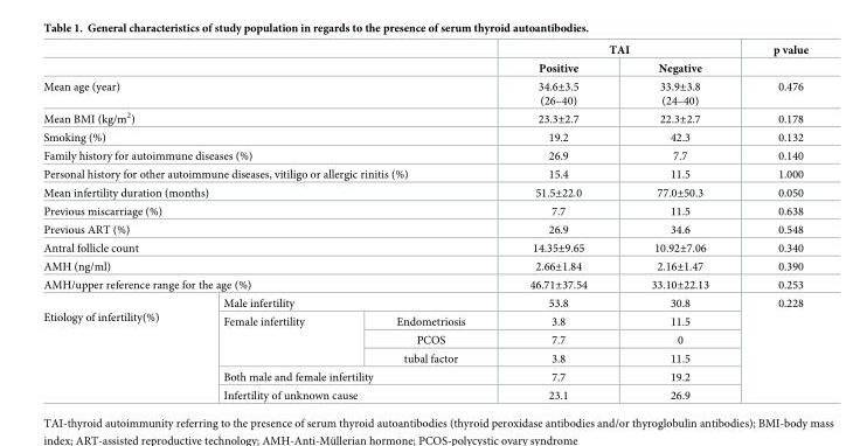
<table><thead><tr><td rowspan="2"></td><td rowspan="2"></td><td rowspan="2"></td><td colspan="2">TAI</td><td rowspan="2">p value</td></tr><tr><td>Positive</td><td>Negative</td></tr></thead><tbody><tr><td colspan="3">Mean age (year)</td><td>34.6±3.5 (26–40)</td><td>33.9±3.8 (24–40)</td><td>0.476</td></tr><tr><td colspan="3">Mean BMI (kg/m<sup>2</sup>)</td><td>23.3±2.7</td><td>22.3±2.7</td><td>0.178</td></tr><tr><td colspan="3">Smoking (%)</td><td>19.2</td><td>42.3</td><td>0.132</td></tr><tr><td colspan="3">Family history for autoimmune diseases (%)</td><td>26.9</td><td>7.7</td><td>0.140</td></tr><tr><td colspan="3">Personal history for other autoimmune diseases, vitiligo or allergic rinitis (%)</td><td>15.4</td><td>11.5</td><td>1.000</td></tr><tr><td colspan="3">Mean infertility duration (months)</td><td>51.5±22.0</td><td>77.0±50.3</td><td>0.050</td></tr><tr><td colspan="3">Previous miscarriage (%)</td><td>7.7</td><td>11.5</td><td>0.638</td></tr><tr><td colspan="3">Previous ART (%)</td><td>26.9</td><td>34.6</td><td>0.548</td></tr><tr><td colspan="3">Antral follicle count</td><td>14.35±9.65</td><td>10.92±7.06</td><td>0.340</td></tr><tr><td colspan="3">AMH (ng/ml)</td><td>2.66±1.84</td><td>2.16±1.47</td><td>0.390</td></tr><tr><td colspan="3">AMH/upper reference range for the age (%)</td><td>46.71±37.54</td><td>33.10±22.13</td><td>0.253</td></tr><tr><td rowspan="6">Etiology of infertility(%)</td><td colspan="2">Male infertility</td><td>53.8</td><td>30.8</td><td rowspan="6">0.228</td></tr><tr><td rowspan="3">Female infertility</td><td>Endometriosis</td><td>3.8</td><td>11.5</td></tr><tr><td>PCOS</td><td>7.7</td><td>0</td></tr><tr><td>tubal factor</td><td>3.8</td><td>11.5</td></tr><tr><td colspan="2">Both male and female infertility</td><td>7.7</td><td>19.2</td></tr><tr><td colspan="2">Infertility of unknown cause</td><td>23.1</td><td>26.9</td></tr></tbody></table>